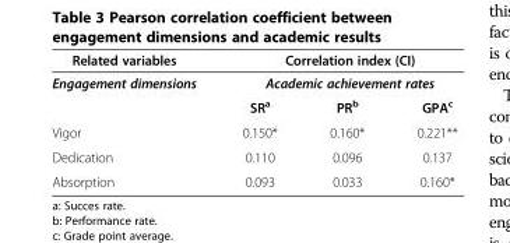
<table><thead><tr><td rowspan="3">Related variables Engagement dimensions</td><td rowspan="2" colspan="3">Correlation index (CI) Academic achievement rates</td></tr><tr></tr><tr><td>SR<sup>a</sup></td><td>PR<sup>b</sup></td><td>GPA<sup>c</sup></td></tr></thead><tbody><tr><td>Vigor</td><td>0.150*</td><td>0.160*</td><td>0.221**</td></tr><tr><td>Dedication</td><td>0.110</td><td>0.096</td><td>0.137</td></tr><tr><td>Absorption</td><td>0.093</td><td>0.033</td><td>0.160*</td></tr></tbody></table>